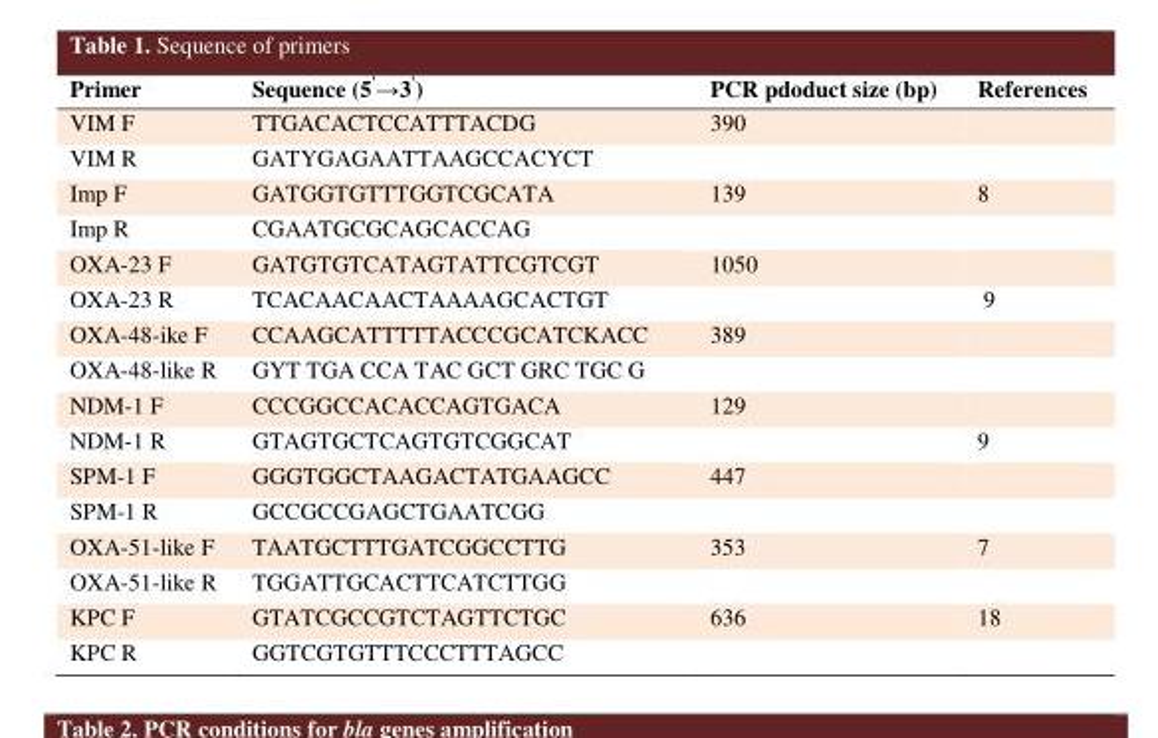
<table><tbody><tr><td>Primer</td><td>Sequence (5<sup>&#x27;</sup>→3<sup>&#x27;</sup>)</td><td>PCR pdoduct size (bp)</td><td>References</td></tr><tr><td>VIM F</td><td>TTGACACTCCATTTACDG</td><td>390</td><td></td></tr><tr><td>VIM R</td><td>GATYGAGAATTAAGCCACYCT</td><td></td><td></td></tr><tr><td>Imp F</td><td>GATGGTGTTTGGTCGCATA</td><td>139</td><td>8</td></tr><tr><td>Imp R</td><td>CGAATGCGCAGCACCAG</td><td></td><td></td></tr><tr><td>OXA-23 F</td><td>GATGTGTCATAGTATTCGTCGT</td><td>1050</td><td></td></tr><tr><td>OXA-23 R</td><td>TCACAACAACTAAAAGCACTGT</td><td></td><td>9</td></tr><tr><td>OXA-48-ike F</td><td>CCAAGCATTTTTACCCGCATCKACC</td><td>389</td><td></td></tr><tr><td>OXA-48-like R</td><td>GYT TGA CCA TAC GCT GRC TGC G</td><td></td><td></td></tr><tr><td>NDM-1 F</td><td>CCCGGCCACACCAGTGACA</td><td>129</td><td></td></tr><tr><td>NDM-1 R</td><td>GTAGTGCTCAGTGTCGGCAT</td><td></td><td>9</td></tr><tr><td>SPM-1 F</td><td>GGGTGGCTAAGACTATGAAGCC</td><td>447</td><td></td></tr><tr><td>SPM-1 R</td><td>GCCGCCGAGCTGAATCGG</td><td></td><td></td></tr><tr><td>OXA-51-like F</td><td>TAATGCTTTGATCGGCCTTG</td><td>353</td><td>7</td></tr><tr><td>OXA-51-like R</td><td>TGGATTGCACTTCATCTTGG</td><td></td><td></td></tr><tr><td>KPC F</td><td>GTATCGCCGTCTAGTTCTGC</td><td>636</td><td>18</td></tr><tr><td>KPC R</td><td>GGTCGTGTTTCCCTTTAGCC</td><td></td><td></td></tr></tbody></table>